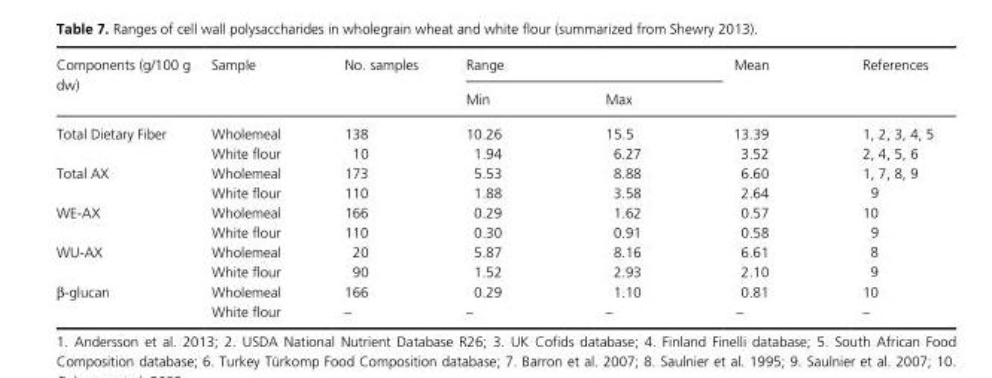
<table><thead><tr><td rowspan="2">Components (g/100 g dw)</td><td rowspan="2">Sample</td><td rowspan="2">No. samples</td><td colspan="2">Range</td><td rowspan="2">Mean</td><td rowspan="2">References</td></tr><tr><td>Min</td><td>Max</td></tr></thead><tbody><tr><td rowspan="2">Total Dietary Fiber</td><td>Wholemeal</td><td>138</td><td>10.26</td><td>15.5</td><td>13.39</td><td>1, 2, 3, 4, 5</td></tr><tr><td>White flour</td><td>10</td><td>1.94</td><td>6.27</td><td>3.52</td><td>2, 4, 5, 6</td></tr><tr><td rowspan="2">Total AX</td><td>Wholemeal</td><td>173</td><td>5.53</td><td>8.88</td><td>6.60</td><td>1, 7, 8, 9</td></tr><tr><td>White flour</td><td>110</td><td>1.88</td><td>3.58</td><td>2.64</td><td>9</td></tr><tr><td rowspan="2">WE- AX</td><td>Wholemeal</td><td>166</td><td>0.29</td><td>1.62</td><td>0.57</td><td>10</td></tr><tr><td>White flour</td><td>110</td><td>0.30</td><td>0.91</td><td>0.58</td><td>9</td></tr><tr><td rowspan="2">WU- AX</td><td>Wholemeal</td><td>20</td><td>5.87</td><td>8.16</td><td>6.61</td><td>8</td></tr><tr><td>White flour</td><td>90</td><td>1.52</td><td>2.93</td><td>2.10</td><td>9</td></tr><tr><td rowspan="2">β- glucan</td><td>Wholemeal</td><td>166</td><td>0.29</td><td>1.10</td><td>0.81</td><td>10</td></tr><tr><td>White flour</td><td>–</td><td>–</td><td>–</td><td>–</td><td>–</td></tr></tbody></table>